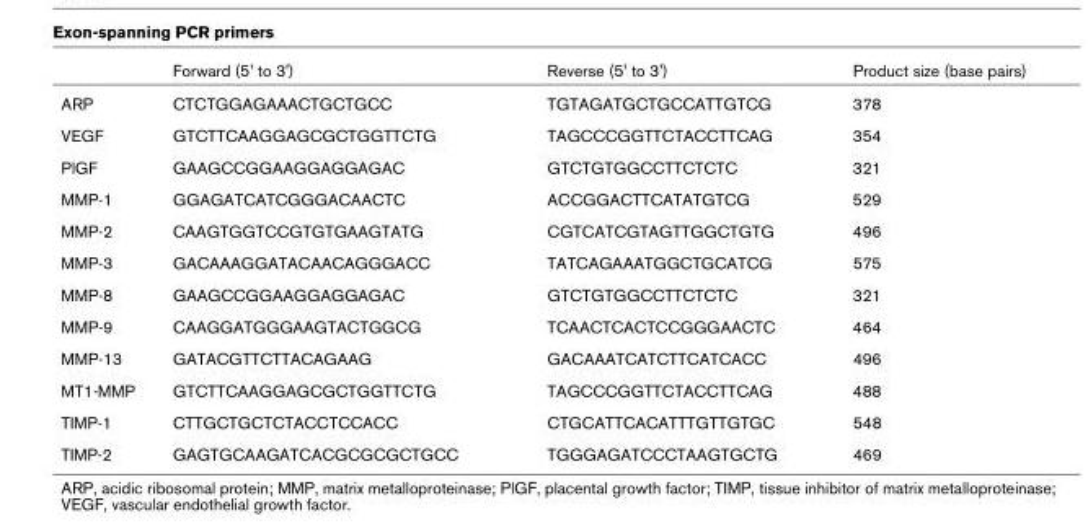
<table><thead><tr><td></td><td>Forward (5&#x27; to 3&#x27;)</td><td>Reverse (5&#x27; to 3&#x27;)</td><td>Product size (base pairs)</td></tr></thead><tbody><tr><td>ARP</td><td>CTCTGGAGAAACTGCTGCC</td><td>TGTAGATGCTGCCATTGTCG</td><td>378</td></tr><tr><td>VEGF</td><td>GTCTTCAAGGAGCGCTGGTTCTG</td><td>TAGCCCGGTTCTACCTTCAG</td><td>354</td></tr><tr><td>PlGF</td><td>GAAGCCGGAAGGAGGAGAC</td><td>GTCTGTGGCCTTCTCTC</td><td>321</td></tr><tr><td>MMP-1</td><td>GGAGATCATCGGGACAACTC</td><td>ACCGGACTTCATATGTCG</td><td>529</td></tr><tr><td>MMP-2</td><td>CAAGTGGTCCGTGTGAAGTATG</td><td>CGTCATCGTAGTTGGCTGTG</td><td>496</td></tr><tr><td>MMP-3</td><td>GACAAAGGATACAACAGGGACC</td><td>TATCAGAAATGGCTGCATCG</td><td>575</td></tr><tr><td>MMP-8</td><td>GAAGCCGGAAGGAGGAGAC</td><td>GTCTGTGGCCTTCTCTC</td><td>321</td></tr><tr><td>MMP-9</td><td>CAAGGATGGGAAGTACTGGCG</td><td>TCAACTCACTCCGGGAACTC</td><td>464</td></tr><tr><td>MMP-13</td><td>GATACGTTCTTACAGAAG</td><td>GACAAATCATCTTCATCACC</td><td>496</td></tr><tr><td>MT1-MMP</td><td>GTCTTCAAGGAGCGCTGGTTCTG</td><td>TAGCCCGGTTCTACCTTCAG</td><td>488</td></tr><tr><td>TIMP-1</td><td>CTTGCTGCTCTACCTCCACC</td><td>CTGCATTCACATTTGTTGTGC</td><td>548</td></tr><tr><td>TIMP-2</td><td>GAGTGCAAGATCACGCGCGCTGCC</td><td>TGGGAGATCCCTAAGTGCTG</td><td>469</td></tr></tbody></table>